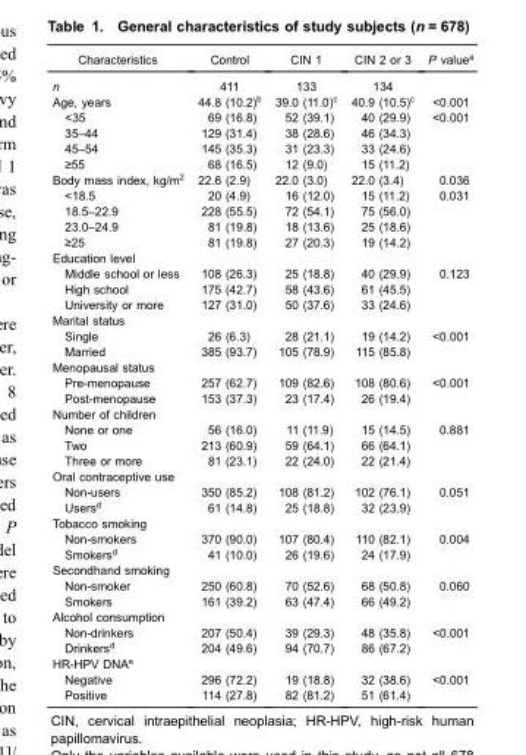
<table><thead><tr><td>Characteristics</td><td>Control</td><td>CIN 1</td><td>CIN 2 or 3</td><td>P value<sup>a</sup></td></tr></thead><tbody><tr><td>n</td><td>411</td><td>133</td><td>134</td><td></td></tr><tr><td>Age, years</td><td>44.8 (10.2)<sup>b</sup></td><td>39.0 (11.0)<sup>c</sup></td><td>40.9 (10.5)<sup>c</sup></td><td>&lt;0.001</td></tr><tr><td>&lt;35</td><td>69 (16.8)</td><td>52 (39.1)</td><td>40 (29.9)</td><td>&lt;0.001</td></tr><tr><td>35–44</td><td>129 (31.4)</td><td>38 (28.6)</td><td>46 (34.3)</td><td></td></tr><tr><td>45–54</td><td>145 (35.3)</td><td>31 (23.3)</td><td>33 (24.6)</td><td></td></tr><tr><td>≥55</td><td>68 (16.5)</td><td>12 (9.0)</td><td>15 (11.2)</td><td></td></tr><tr><td>Body mass index, kg/m<sup>2</sup></td><td>22.6 (2.9)</td><td>22.0 (3.0)</td><td>22.0 (3.4)</td><td>0.036</td></tr><tr><td>&lt;18.5</td><td>20 (4.9)</td><td>16 (12.0)</td><td>15 (11.2)</td><td>0.031</td></tr><tr><td>18.5–22.9</td><td>228 (55.5)</td><td>72 (54.1)</td><td>75 (56.0)</td><td></td></tr><tr><td>23.0–24.9</td><td>81 (19.8)</td><td>18 (13.6)</td><td>25 (18.6)</td><td></td></tr><tr><td>≥25</td><td>81 (19.8)</td><td>27 (20.3)</td><td>19 (14.2)</td><td></td></tr><tr><td colspan="5">Education level</td></tr><tr><td>Middle school or less</td><td>108 (26.3)</td><td>25 (18.8)</td><td>40 (29.9)</td><td>0.123</td></tr><tr><td>High school</td><td>175 (42.7)</td><td>58 (43.6)</td><td>61 (45.5)</td><td></td></tr><tr><td>University or more</td><td>127 (31.0)</td><td>50 (37.6)</td><td>33 (24.6)</td><td></td></tr><tr><td colspan="5">Marital status</td></tr><tr><td>Single</td><td>26 (6.3)</td><td>28 (21.1)</td><td>19 (14.2)</td><td>&lt;0.001</td></tr><tr><td>Married</td><td>385 (93.7)</td><td>105 (78.9)</td><td>115 (85.8)</td><td></td></tr><tr><td colspan="5">Menopausal status</td></tr><tr><td>Pre-menopause</td><td>257 (62.7)</td><td>109 (82.6)</td><td>108 (80.6)</td><td>&lt;0.001</td></tr><tr><td>Post-menopause</td><td>153 (37.3)</td><td>23 (17.4)</td><td>26 (19.4)</td><td></td></tr><tr><td colspan="5">Number of children</td></tr><tr><td>None or one</td><td>56 (16.0)</td><td>11 (11.9)</td><td>15 (14.5)</td><td>0.881</td></tr><tr><td>Two</td><td>213 (60.9)</td><td>59 (64.1)</td><td>66 (64.1)</td><td></td></tr><tr><td>Three or more</td><td>81 (23.1)</td><td>22 (24.0)</td><td>22 (21.4)</td><td></td></tr><tr><td colspan="5">Oral contraceptive use</td></tr><tr><td>Non-users</td><td>350 (85.2)</td><td>108 (81.2)</td><td>102 (76.1)</td><td>0.051</td></tr><tr><td>Users<sup>d</sup></td><td>61 (14.8)</td><td>25 (18.8)</td><td>32 (23.9)</td><td></td></tr><tr><td colspan="5">Tobacco smoking</td></tr><tr><td>Non-smokers</td><td>370 (90.0)</td><td>107 (80.4)</td><td>110 (82.1)</td><td>0.004</td></tr><tr><td>Smokers<sup>d</sup></td><td>41 (10.0)</td><td>26 (19.6)</td><td>24 (17.9)</td><td></td></tr><tr><td colspan="5">Secondhand smoking</td></tr><tr><td>Non-smoker</td><td>250 (60.8)</td><td>70 (52.6)</td><td>68 (50.8)</td><td>0.060</td></tr><tr><td>Smokers</td><td>161 (39.2)</td><td>63 (47.4)</td><td>66 (49.2)</td><td></td></tr><tr><td colspan="5">Alcohol consumption</td></tr><tr><td>Non-drinkers</td><td>207 (50.4)</td><td>39 (29.3)</td><td>48 (35.8)</td><td>&lt;0.001</td></tr><tr><td>Drinkers<sup>d</sup></td><td>204 (49.6)</td><td>94 (70.7)</td><td>86 (67.2)</td><td></td></tr><tr><td colspan="5">HR-HPV DNA<sup>e</sup></td></tr><tr><td>Negative</td><td>296 (72.2)</td><td>19 (18.8)</td><td>32 (38.6)</td><td>&lt;0.001</td></tr><tr><td>Positive</td><td>114 (27.8)</td><td>82 (81.2)</td><td>51 (61.4)</td><td></td></tr></tbody></table>